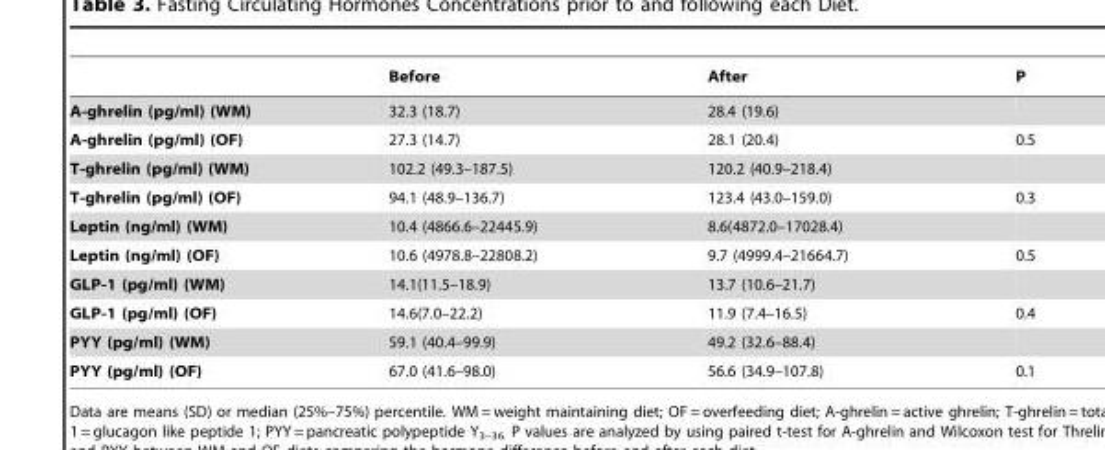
<table><thead><tr><td></td><td>Before</td><td>After</td><td>P</td></tr></thead><tbody><tr><td>A-ghrelin (pg/ml) (WM)</td><td>32.3 (18.7)</td><td>28.4 (19.6)</td><td></td></tr><tr><td>A-ghrelin (pg/ml) (OF)</td><td>27.3 (14.7)</td><td>28.1 (20.4)</td><td>0.5</td></tr><tr><td>T-ghrelin (pg/ml) (WM)</td><td>102.2 (49.3–187.5)</td><td>120.2 (40.9–218.4)</td><td></td></tr><tr><td>T-ghrelin (pg/ml) (OF)</td><td>94.1 (48.9–136.7)</td><td>123.4 (43.0–159.0)</td><td>0.3</td></tr><tr><td>Leptin (ng/ml) (WM)</td><td>10.4 (4866.6–22445.9)</td><td>8.6(4872.0–17028.4)</td><td></td></tr><tr><td>Leptin (ng/ml) (OF)</td><td>10.6 (4978.8–22808.2)</td><td>9.7 (4999.4–21664.7)</td><td>0.5</td></tr><tr><td>GLP-1 (pg/ml) (WM)</td><td>14.1(11.5–18.9)</td><td>13.7 (10.6–21.7)</td><td></td></tr><tr><td>GLP-1 (pg/ml) (OF)</td><td>14.6(7.0–22.2)</td><td>11.9 (7.4–16.5)</td><td>0.4</td></tr><tr><td>PYY (pg/ml) (WM)</td><td>59.1 (40.4–99.9)</td><td>49.2 (32.6–88.4)</td><td></td></tr><tr><td>PYY (pg/ml) (OF)</td><td>67.0 (41.6–98.0)</td><td>56.6 (34.9–107.8)</td><td>0.1</td></tr></tbody></table>